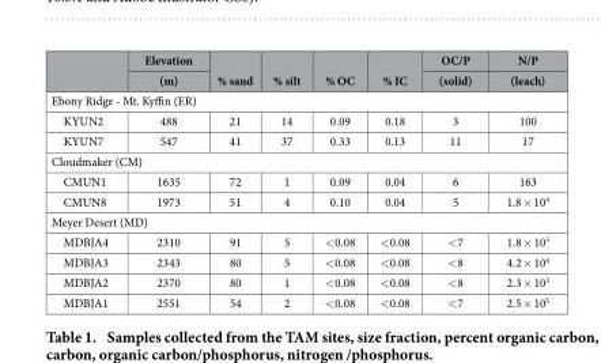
<table><thead><tr><td rowspan="2"></td><td rowspan="2">Elevation (m)</td><td rowspan="2">% sand</td><td rowspan="2">% silt</td><td rowspan="2">% OC</td><td rowspan="2">% IC</td><td rowspan="2">OC/P (solid)</td><td rowspan="2">N/P (leach)</td></tr><tr></tr></thead><tbody><tr><td colspan="8">Ebony Ridge - Mt. Kyffin (ER)</td></tr><tr><td>KYUN2</td><td>488</td><td>21</td><td>14</td><td>0.09</td><td>0.18</td><td>3</td><td>100</td></tr><tr><td>KYUN7</td><td>547</td><td>41</td><td>37</td><td>0.33</td><td>0.13</td><td>11</td><td>17</td></tr><tr><td colspan="8">Cloudmaker (CM)</td></tr><tr><td>CMUN1</td><td>1635</td><td>72</td><td>1</td><td>0.09</td><td>0.04</td><td>6</td><td>163</td></tr><tr><td>CMUN8</td><td>1973</td><td>51</td><td>4</td><td>0.10</td><td>0.04</td><td>5</td><td>1.8 × 10<sup>4</sup></td></tr><tr><td colspan="8">Meyer Desert (MD)</td></tr><tr><td>MDBJA4</td><td>2310</td><td>91</td><td>5</td><td>&lt; 0.08</td><td>&lt; 0.08</td><td>&lt; 7</td><td>1.8 × 10<sup>5</sup></td></tr><tr><td>MDBJA3</td><td>2343</td><td>80</td><td>5</td><td>&lt; 0.08</td><td>&lt; 0.08</td><td>&lt; 8</td><td>4.2 × 10<sup>4</sup></td></tr><tr><td>MDBJA2</td><td>2370</td><td>80</td><td>1</td><td>&lt; 0.08</td><td>&lt; 0.08</td><td>&lt; 8</td><td>2.3 × 10<sup>3</sup></td></tr><tr><td>MDBJA1</td><td>2551</td><td>54</td><td>2</td><td>&lt; 0.08</td><td>&lt; 0.08</td><td>&lt; 7</td><td>2.5 × 10<sup>5</sup></td></tr></tbody></table>